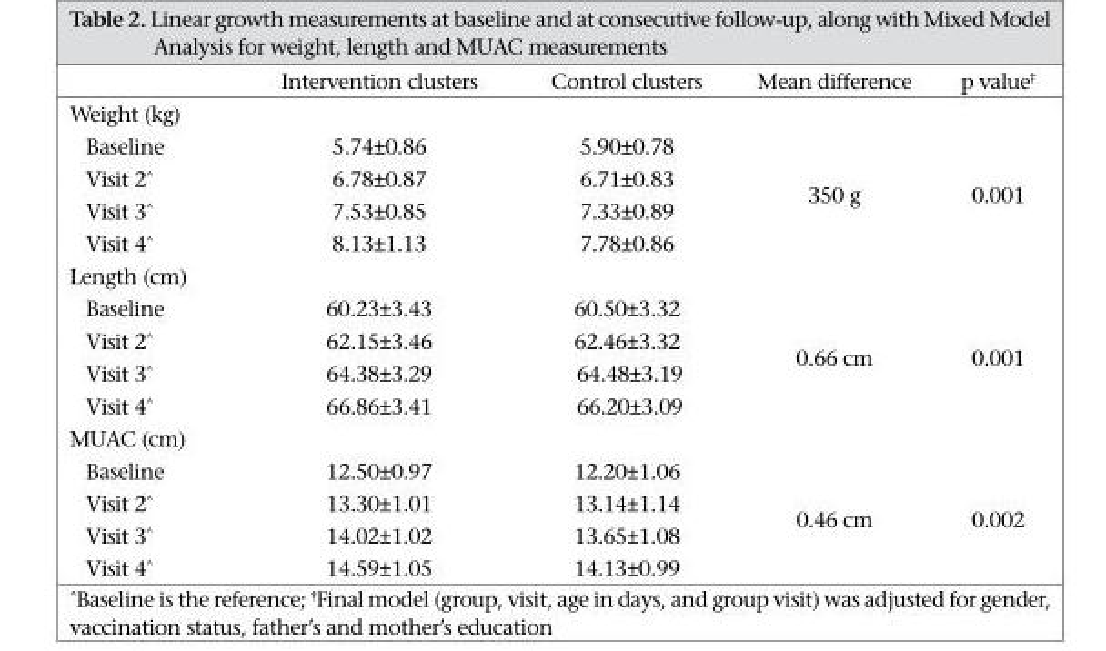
<table><thead><tr><td></td><td>Intervention clusters</td><td>Control clusters</td><td>Mean difference</td><td>p value†</td></tr></thead><tbody><tr><td colspan="5">Weight (kg)</td></tr><tr><td>Baseline</td><td>5.74±0.86</td><td>5.90±0.78</td><td rowspan="4">350 g</td><td rowspan="4">0.001</td></tr><tr><td>Visit 2^</td><td>6.78±0.87</td><td>6.71±0.83</td></tr><tr><td>Visit 3^</td><td>7.53±0.85</td><td>7.33±0.89</td></tr><tr><td>Visit 4^</td><td>8.13±1.13</td><td>7.78±0.86</td></tr><tr><td colspan="5">Length (cm)</td></tr><tr><td>Baseline</td><td>60.23±3.43</td><td>60.50±3.32</td><td rowspan="4">0.66 cm</td><td rowspan="4">0.001</td></tr><tr><td>Visit 2^</td><td>62.15±3.46</td><td>62.46±3.32</td></tr><tr><td>Visit 3^</td><td>64.38±3.29</td><td>64.48±3.19</td></tr><tr><td>Visit 4^</td><td>66.86±3.41</td><td>66.20±3.09</td></tr><tr><td colspan="5">MUAC (cm)</td></tr><tr><td>Baseline</td><td>12.50±0.97</td><td>12.20±1.06</td><td rowspan="4">0.46 cm</td><td rowspan="4">0.002</td></tr><tr><td>Visit 2^</td><td>13.30±1.01</td><td>13.14±1.14</td></tr><tr><td>Visit 3^</td><td>14.02±1.02</td><td>13.65±1.08</td></tr><tr><td>Visit 4^</td><td>14.59±1.05</td><td>14.13±0.99</td></tr></tbody></table>